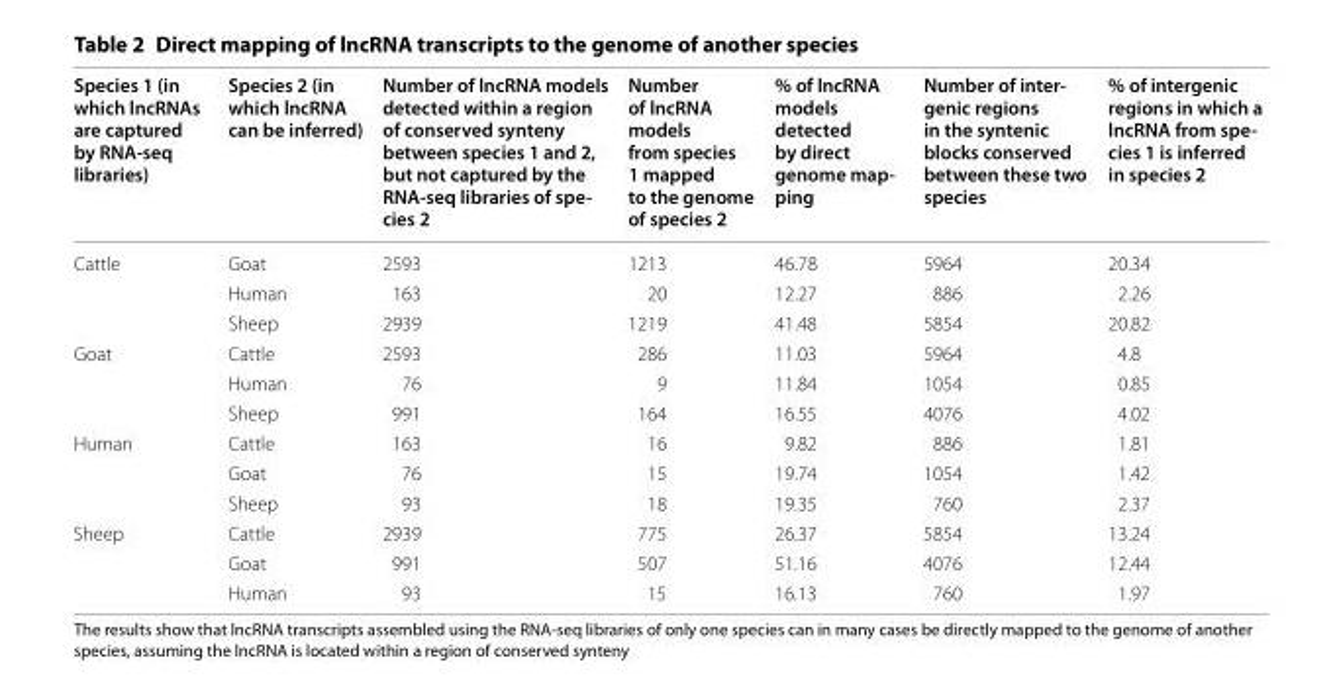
<table><thead><tr><td>Species 1 (in which lncRNAs are captured by RNA‑seq libraries)</td><td>Species 2 (in which lncRNA can be inferred)</td><td>Number of lncRNA models detected within a region of conserved synteny between species 1 and 2, but not captured by the RNA‑seq libraries of spe‑ cies 2</td><td>Number of lncRNA models from species 1 mapped to the genome of species 2</td><td>% of lncRNA models detected by direct genome map‑ ping</td><td>Number of inter‑ genic regions in the syntenic blocks conserved between these two species</td><td>% of intergenic regions in which a lncRNA from spe‑ cies 1 is inferred in species 2</td></tr></thead><tbody><tr><td rowspan="3">Cattle</td><td>Goat</td><td>2593</td><td>1213</td><td>46.78</td><td>5964</td><td>20.34</td></tr><tr><td>Human</td><td>163</td><td>20</td><td>12.27</td><td>886</td><td>2.26</td></tr><tr><td>Sheep</td><td>2939</td><td>1219</td><td>41.48</td><td>5854</td><td>20.82</td></tr><tr><td rowspan="3">Goat</td><td>Cattle</td><td>2593</td><td>286</td><td>11.03</td><td>5964</td><td>4.8</td></tr><tr><td>Human</td><td>76</td><td>9</td><td>11.84</td><td>1054</td><td>0.85</td></tr><tr><td>Sheep</td><td>991</td><td>164</td><td>16.55</td><td>4076</td><td>4.02</td></tr><tr><td rowspan="3">Human</td><td>Cattle</td><td>163</td><td>16</td><td>9.82</td><td>886</td><td>1.81</td></tr><tr><td>Goat</td><td>76</td><td>15</td><td>19.74</td><td>1054</td><td>1.42</td></tr><tr><td>Sheep</td><td>93</td><td>18</td><td>19.35</td><td>760</td><td>2.37</td></tr><tr><td rowspan="3">Sheep</td><td>Cattle</td><td>2939</td><td>775</td><td>26.37</td><td>5854</td><td>13.24</td></tr><tr><td>Goat</td><td>991</td><td>507</td><td>51.16</td><td>4076</td><td>12.44</td></tr><tr><td>Human</td><td>93</td><td>15</td><td>16.13</td><td>760</td><td>1.97</td></tr></tbody></table>